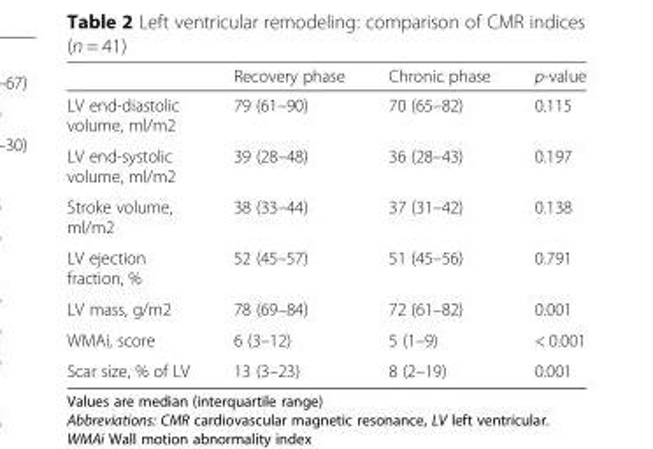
<table><thead><tr><td></td><td>Recovery phase</td><td>Chronic phase</td><td>p-value</td></tr></thead><tbody><tr><td>LV end-diastolic volume, ml/m2</td><td>79 (61–90)</td><td>70 (65–82)</td><td>0.115</td></tr><tr><td>LV end-systolic volume, ml/m2</td><td>39 (28–48)</td><td>36 (28–43)</td><td>0.197</td></tr><tr><td>Stroke volume, ml/m2</td><td>38 (33–44)</td><td>37 (31–42)</td><td>0.138</td></tr><tr><td>LV ejection fraction, %</td><td>52 (45–57)</td><td>51 (45–56)</td><td>0.791</td></tr><tr><td>LV mass, g/m2</td><td>78 (69–84)</td><td>72 (61–82)</td><td>0.001</td></tr><tr><td>WMAi, score</td><td>6 (3–12)</td><td>5 (1–9)</td><td>&lt; 0.001</td></tr><tr><td>Scar size, % of LV</td><td>13 (3–23)</td><td>8 (2–19)</td><td>0.001</td></tr></tbody></table>